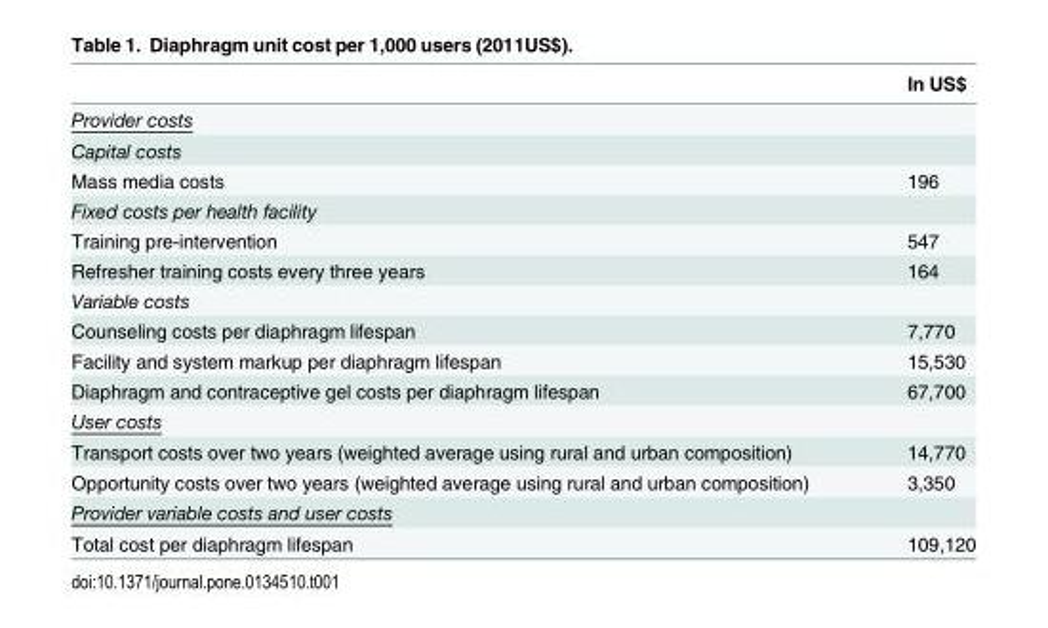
<table><thead><tr><td></td><td>In US$</td></tr></thead><tbody><tr><td colspan="2">Provider costs</td></tr><tr><td colspan="2">Capital costs</td></tr><tr><td>Mass media costs</td><td>196</td></tr><tr><td colspan="2">Fixed costs per health facility</td></tr><tr><td>Training pre-intervention</td><td>547</td></tr><tr><td>Refresher training costs every three years</td><td>164</td></tr><tr><td colspan="2">Variable costs</td></tr><tr><td>Counseling costs per diaphragm lifespan</td><td>7,770</td></tr><tr><td>Facility and system markup per diaphragm lifespan</td><td>15,530</td></tr><tr><td>Diaphragm and contraceptive gel costs per diaphragm lifespan</td><td>67,700</td></tr><tr><td colspan="2">User costs</td></tr><tr><td>Transport costs over two years (weighted average using rural and urban composition)</td><td>14,770</td></tr><tr><td>Opportunity costs over two years (weighted average using rural and urban composition)</td><td>3,350</td></tr><tr><td colspan="2">Provider variable costs and user costs</td></tr><tr><td>Total cost per diaphragm lifespan</td><td>109,120</td></tr></tbody></table>